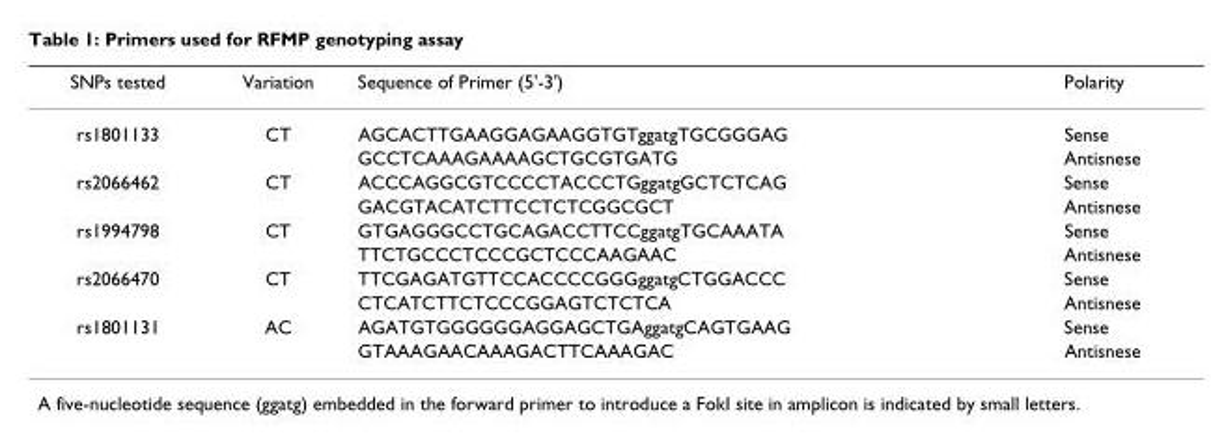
<table><thead><tr><td>SNPs tested</td><td>Variation</td><td>Sequence of Primer (5&#x27;-3&#x27;)</td><td>Polarity</td></tr></thead><tbody><tr><td rowspan="2">rs1801133</td><td>CT</td><td>AGCACTTGAAGGAGAAGGTGTggatgTGCGGGAG</td><td>Sense</td></tr><tr><td></td><td>GCCTCAAAGAAAAGCTGCGTGATG</td><td>Antisnese</td></tr><tr><td rowspan="2">rs2066462</td><td>CT</td><td>ACCCAGGCGTCCCCTACCCTGggatgGCTCTCAG</td><td>Sense</td></tr><tr><td></td><td>GACGTACATCTTCCTCTCGGCGCT</td><td>Antisnese</td></tr><tr><td rowspan="2">rs1994798</td><td>CT</td><td>GTGAGGGCCTGCAGACCTTCCggatgTGCAAATA</td><td>Sense</td></tr><tr><td></td><td>TTCTGCCCTCCCGCTCCCAAGAAC</td><td>Antisnese</td></tr><tr><td rowspan="2">rs2066470</td><td>CT</td><td>TTCGAGATGTTCCACCCCGGGggatgCTGGACCC</td><td>Sense</td></tr><tr><td></td><td>CTCATCTTCTCCCGGAGTCTCTCA</td><td>Antisnese</td></tr><tr><td rowspan="2">rs1801131</td><td>AC</td><td>AGATGTGGGGGGAGGAGCTGAggatgCAGTGAAG</td><td>Sense</td></tr><tr><td></td><td>GTAAAGAACAAAGACTTCAAAGAC</td><td>Antisnese</td></tr></tbody></table>